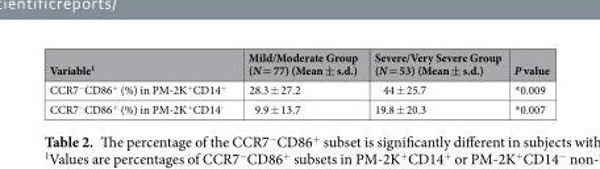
<table><thead><tr><td>Variable<sup>1</sup></td><td>Mild/Moderate Group (N = 77) (Mean ± s.d.)</td><td>Severe/Very Severe Group (N = 53) (Mean ± s.d.)</td><td>P value</td></tr></thead><tbody><tr><td>CCR7<sup>−</sup>CD86<sup>+</sup> (%) in PM-2K<sup>+</sup>CD14<sup>+</sup></td><td>28.3 ± 27.2</td><td>44 ± 25.7</td><td>*0.009</td></tr><tr><td>CCR7<sup>−</sup>CD86<sup>+</sup> (%) in PM-2K<sup>+</sup>CD14<sup>-</sup></td><td>9.9 ± 13.7</td><td>19.8 ± 20.3</td><td>*0.007</td></tr></tbody></table>